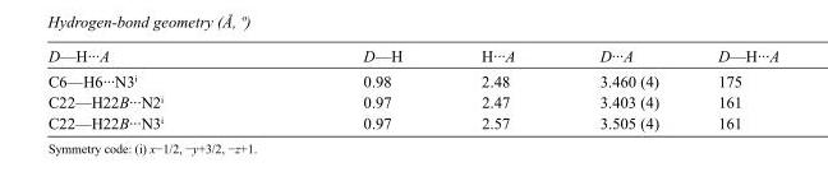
<table><tbody><tr><td>D—H···A</td><td>D—H</td><td>H···A</td><td>D···A</td><td>D—H···A</td></tr><tr><td>C6—H6···N3<sup>i</sup></td><td>0.98</td><td>2.48</td><td>3.460 (4)</td><td>175</td></tr><tr><td>C22—H22B···N2<sup>i</sup></td><td>0.97</td><td>2.47</td><td>3.403 (4)</td><td>161</td></tr><tr><td>C22—H22B···N3<sup>i</sup></td><td>0.97</td><td>2.57</td><td>3.505 (4)</td><td>161</td></tr></tbody></table>